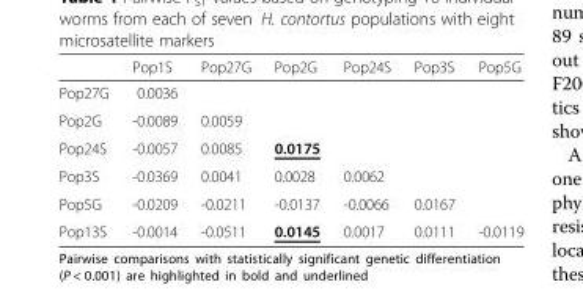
<table><thead><tr><td></td><td>Pop1S</td><td>Pop27G</td><td>Pop2G</td><td>Pop24S</td><td>Pop3S</td><td>Pop5G</td></tr></thead><tbody><tr><td>Pop27G</td><td>0.0036</td><td></td><td></td><td></td><td></td><td></td></tr><tr><td>Pop2G</td><td>-0.0089</td><td>0.0059</td><td></td><td></td><td></td><td></td></tr><tr><td>Pop24S</td><td>-0.0057</td><td>0.0085</td><td>0.0175</td><td></td><td></td><td></td></tr><tr><td>Pop3S</td><td>-0.0369</td><td>0.0041</td><td>0.0028</td><td>0.0062</td><td></td><td></td></tr><tr><td>Pop5G</td><td>-0.0209</td><td>-0.0211</td><td>-0.0137</td><td>-0.0066</td><td>0.0167</td><td></td></tr><tr><td>Pop13S</td><td>-0.0014</td><td>-0.0511</td><td>0.0145</td><td>0.0017</td><td>0.0111</td><td>-0.0119</td></tr></tbody></table>